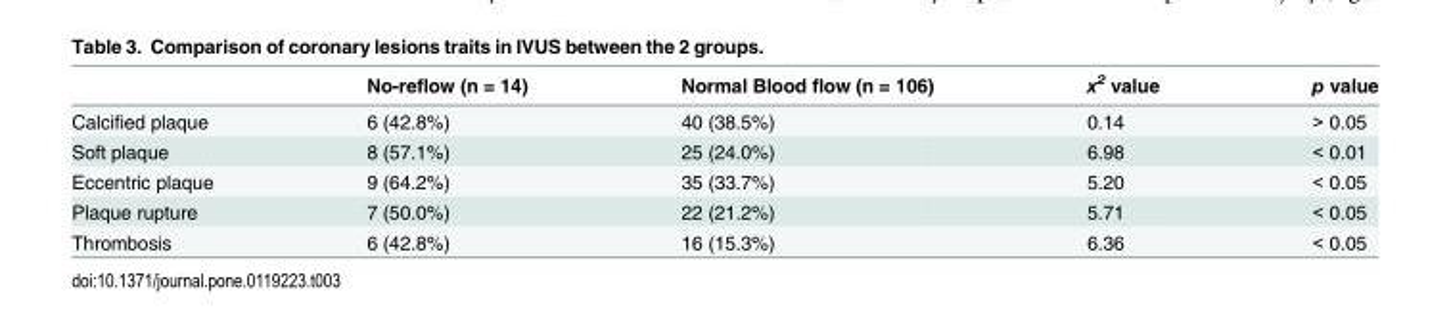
<table><thead><tr><td></td><td>No-reflow (n = 14)</td><td>Normal Blood flow (n = 106)</td><td>x<sup>2</sup> value</td><td>p value</td></tr></thead><tbody><tr><td>Calcified plaque</td><td>6 (42.8%)</td><td>40 (38.5%)</td><td>0.14</td><td>&gt; 0.05</td></tr><tr><td>Soft plaque</td><td>8 (57.1%)</td><td>25 (24.0%)</td><td>6.98</td><td>&lt; 0.01</td></tr><tr><td>Eccentric plaque</td><td>9 (64.2%)</td><td>35 (33.7%)</td><td>5.20</td><td>&lt; 0.05</td></tr><tr><td>Plaque rupture</td><td>7 (50.0%)</td><td>22 (21.2%)</td><td>5.71</td><td>&lt; 0.05</td></tr><tr><td>Thrombosis</td><td>6 (42.8%)</td><td>16 (15.3%)</td><td>6.36</td><td>&lt; 0.05</td></tr></tbody></table>